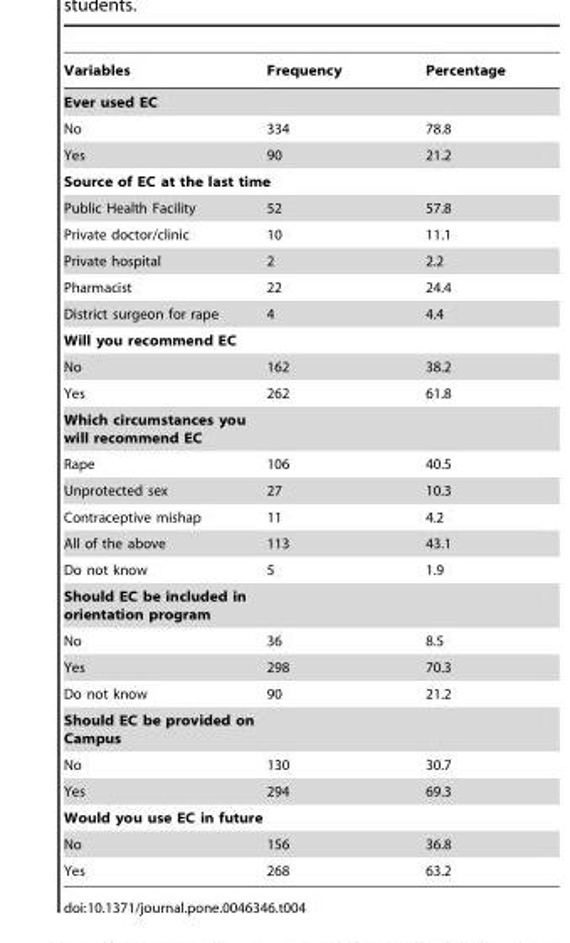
<table><thead><tr><td>Variables</td><td>Frequency</td><td>Percentage</td></tr></thead><tbody><tr><td colspan="3">Ever used EC</td></tr><tr><td>No</td><td>334</td><td>78.8</td></tr><tr><td>Yes</td><td>90</td><td>21.2</td></tr><tr><td colspan="3">Source of EC at the last time</td></tr><tr><td>Public Health Facility</td><td>52</td><td>57.8</td></tr><tr><td>Private doctor/clinic</td><td>10</td><td>11.1</td></tr><tr><td>Private hospital</td><td>2</td><td>2.2</td></tr><tr><td>Pharmacist</td><td>22</td><td>24.4</td></tr><tr><td>District surgeon for rape</td><td>4</td><td>4.4</td></tr><tr><td colspan="3">Will you recommend EC</td></tr><tr><td>No</td><td>162</td><td>38.2</td></tr><tr><td>Yes</td><td>262</td><td>61.8</td></tr><tr><td colspan="3">Which circumstances you will recommend EC</td></tr><tr><td>Rape</td><td>106</td><td>40.5</td></tr><tr><td>Unprotected sex</td><td>27</td><td>10.3</td></tr><tr><td>Contraceptive mishap</td><td>11</td><td>4.2</td></tr><tr><td>All of the above</td><td>113</td><td>43.1</td></tr><tr><td>Do not know</td><td>5</td><td>1.9</td></tr><tr><td colspan="3">Should EC be included in orientation program</td></tr><tr><td>No</td><td>36</td><td>8.5</td></tr><tr><td>Yes</td><td>298</td><td>70.3</td></tr><tr><td>Do not know</td><td>90</td><td>21.2</td></tr><tr><td colspan="3">Should EC be provided on Campus</td></tr><tr><td>No</td><td>130</td><td>30.7</td></tr><tr><td>Yes</td><td>294</td><td>69.3</td></tr><tr><td colspan="3">Would you use EC in future</td></tr><tr><td>No</td><td>156</td><td>36.8</td></tr><tr><td>Yes</td><td>268</td><td>63.2</td></tr></tbody></table>